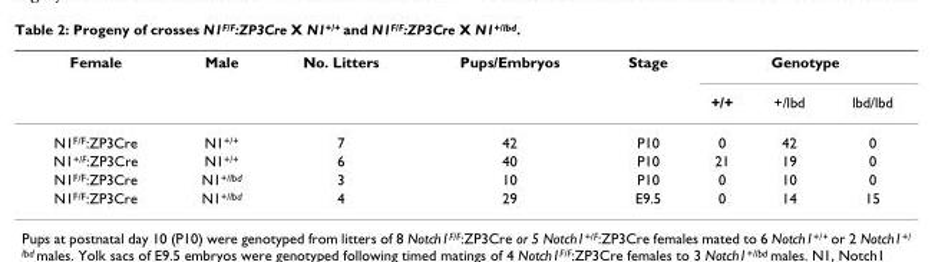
<table><thead><tr><td rowspan="2">Female</td><td rowspan="2">Male</td><td rowspan="2">No. Litters</td><td rowspan="2">Pups/Embryos</td><td rowspan="2">Stage</td><td colspan="3">Genotype</td></tr><tr><td>+/+</td><td>+/lbd</td><td>lbd/lbd</td></tr></thead><tbody><tr><td>N1<sup>F/F</sup>:ZP3Cre</td><td>N1<sup>+/+</sup></td><td>7</td><td>42</td><td>P10</td><td>0</td><td>42</td><td>0</td></tr><tr><td>N1<sup>+/F</sup>:ZP3Cre</td><td>N1<sup>+/+</sup></td><td>6</td><td>40</td><td>P10</td><td>21</td><td>19</td><td>0</td></tr><tr><td>N1<sup>F/F</sup>:ZP3Cre</td><td>N1<sup>+/lbd</sup></td><td>3</td><td>10</td><td>P10</td><td>0</td><td>10</td><td>0</td></tr><tr><td>N1<sup>F/F</sup>:ZP3Cre</td><td>N1<sup>+/lbd</sup></td><td>4</td><td>29</td><td>E9.5</td><td>0</td><td>14</td><td>15</td></tr></tbody></table>